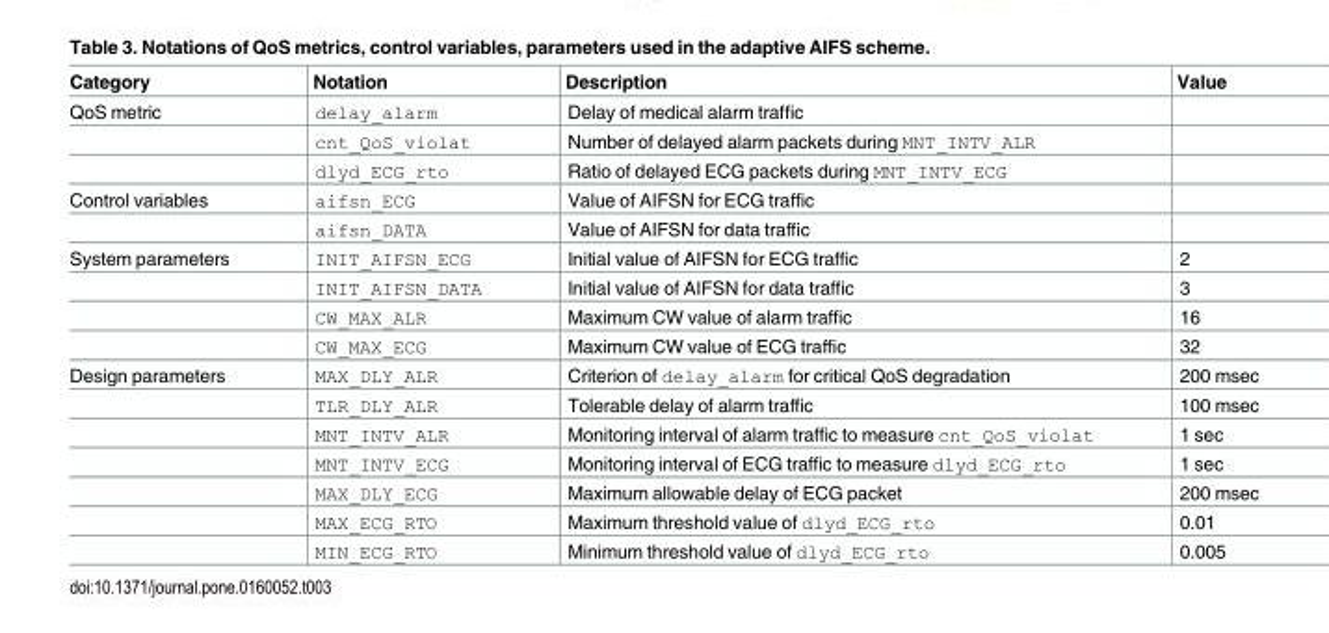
<table><thead><tr><td>Category</td><td>Notation</td><td>Description</td><td>Value</td></tr></thead><tbody><tr><td rowspan="3">QoS metric</td><td>delay_alarm</td><td>Delay of medical alarm traffic</td><td></td></tr><tr><td>cnt_QoS_violat</td><td>Number of delayed alarm packets during MNT_INTV_ALR</td><td></td></tr><tr><td>dlyd_ECG_rto</td><td>Ratio of delayed ECG packets during MNT_INTV_ECG</td><td></td></tr><tr><td rowspan="2">Control variables</td><td>aifsn_ECG</td><td>Value of AIFSN for ECG traffic</td><td></td></tr><tr><td>aifsn_DATA</td><td>Value of AIFSN for data traffic</td><td></td></tr><tr><td rowspan="4">System parameters</td><td>INIT_AIFSN_ECG</td><td>Initial value of AIFSN for ECG traffic</td><td>2</td></tr><tr><td>INIT_AIFSN_DATA</td><td>Initial value of AIFSN for data traffic</td><td>3</td></tr><tr><td>CW_MAX_ALR</td><td>Maximum CW value of alarm traffic</td><td>16</td></tr><tr><td>CW_MAX_ECG</td><td>Maximum CW value of ECG traffic</td><td>32</td></tr><tr><td rowspan="7">Design parameters</td><td>MAX_DLY_ALR</td><td>Criterion of delay_alarm for critical QoS degradation</td><td>200 msec</td></tr><tr><td>TLR_DLY_ALR</td><td>Tolerable delay of alarm traffic</td><td>100 msec</td></tr><tr><td>MNT_INTV_ALR</td><td>Monitoring interval of alarm traffic to measure cnt_QoS_violat</td><td>1 sec</td></tr><tr><td>MNT_INTV_ECG</td><td>Monitoring interval of ECG traffic to measure dlyd_ECG_rto</td><td>1 sec</td></tr><tr><td>MAX_DLY_ECG</td><td>Maximum allowable delay of ECG packet</td><td>200 msec</td></tr><tr><td>MAX_ECG_RTO</td><td>Maximum threshold value of dlyd_ECG_rto</td><td>0.01</td></tr><tr><td>MIN_ECG_RTO</td><td>Minimum threshold value of dlyd_ECG_rto</td><td>0.005</td></tr></tbody></table>